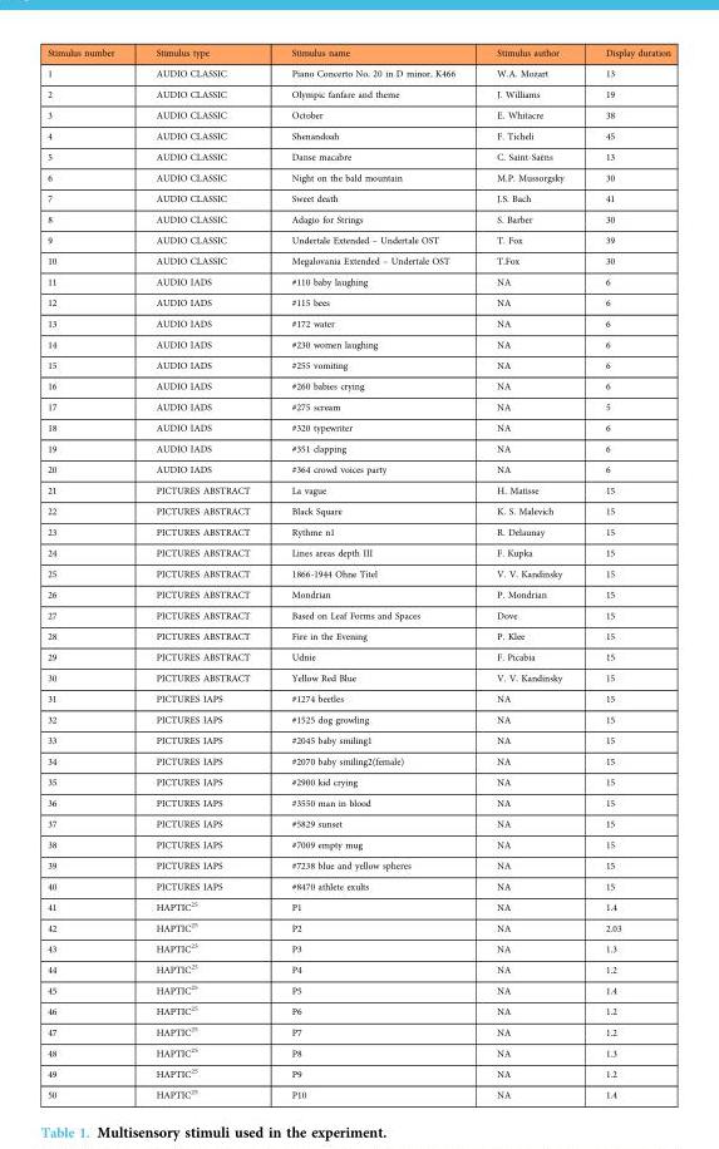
<table><thead><tr><td>Stimulus number</td><td>Stimulus type</td><td>Stimulus name</td><td>Stimulus author</td><td>Display duration</td></tr></thead><tbody><tr><td>1</td><td>AUDIO CLASSIC</td><td>Piano Concerto No. 20 in D minor, K466</td><td>W.A. Mozart</td><td>13</td></tr><tr><td>2</td><td>AUDIO CLASSIC</td><td>Olympic fanfare and theme</td><td>J. Williams</td><td>19</td></tr><tr><td>3</td><td>AUDIO CLASSIC</td><td>October</td><td>E. Whitacre</td><td>38</td></tr><tr><td>4</td><td>AUDIO CLASSIC</td><td>Shenandoah</td><td>F. Ticheli</td><td>45</td></tr><tr><td>5</td><td>AUDIO CLASSIC</td><td>Danse macabre</td><td>C. Saint-Saëns</td><td>13</td></tr><tr><td>6</td><td>AUDIO CLASSIC</td><td>Night on the bald mountain</td><td>M.P. Mussorgsky</td><td>30</td></tr><tr><td>7</td><td>AUDIO CLASSIC</td><td>Sweet death</td><td>J.S. Bach</td><td>41</td></tr><tr><td>8</td><td>AUDIO CLASSIC</td><td>Adagio for Strings</td><td>S. Barber</td><td>30</td></tr><tr><td>9</td><td>AUDIO CLASSIC</td><td>Undertale Extended – Undertale OST</td><td>T. Fox</td><td>39</td></tr><tr><td>10</td><td>AUDIO CLASSIC</td><td>Megalovania Extended – Undertale OST</td><td>T.Fox</td><td>30</td></tr><tr><td>11</td><td>AUDIO IADS</td><td>#110 baby laughing</td><td>NA</td><td>6</td></tr><tr><td>12</td><td>AUDIO IADS</td><td>#115 bees</td><td>NA</td><td>6</td></tr><tr><td>13</td><td>AUDIO IADS</td><td>#172 water</td><td>NA</td><td>6</td></tr><tr><td>14</td><td>AUDIO IADS</td><td>#230 women laughing</td><td>NA</td><td>6</td></tr><tr><td>15</td><td>AUDIO IADS</td><td>#255 vomiting</td><td>NA</td><td>6</td></tr><tr><td>16</td><td>AUDIO IADS</td><td>#260 babies crying</td><td>NA</td><td>6</td></tr><tr><td>17</td><td>AUDIO IADS</td><td>#275 scream</td><td>NA</td><td>5</td></tr><tr><td>18</td><td>AUDIO IADS</td><td>#320 typewriter</td><td>NA</td><td>6</td></tr><tr><td>19</td><td>AUDIO IADS</td><td>#351 clapping</td><td>NA</td><td>6</td></tr><tr><td>20</td><td>AUDIO IADS</td><td>#364 crowd voices party</td><td>NA</td><td>6</td></tr><tr><td>21</td><td>PICTURES ABSTRACT</td><td>La vague</td><td>H. Matisse</td><td>15</td></tr><tr><td>22</td><td>PICTURES ABSTRACT</td><td>Black Square</td><td>K. S. Malevich</td><td>15</td></tr><tr><td>23</td><td>PICTURES ABSTRACT</td><td>Rythme n1</td><td>R. Delaunay</td><td>15</td></tr><tr><td>24</td><td>PICTURES ABSTRACT</td><td>Lines areas depth III</td><td>F. Kupka</td><td>15</td></tr><tr><td>25</td><td>PICTURES ABSTRACT</td><td>1866-1944 Ohne Titel</td><td>V. V. Kandinsky</td><td>15</td></tr><tr><td>26</td><td>PICTURES ABSTRACT</td><td>Mondrian</td><td>P. Mondrian</td><td>15</td></tr><tr><td>27</td><td>PICTURES ABSTRACT</td><td>Based on Leaf Forms and Spaces</td><td>Dove</td><td>15</td></tr><tr><td>28</td><td>PICTURES ABSTRACT</td><td>Fire in the Evening</td><td>P. Klee</td><td>15</td></tr><tr><td>29</td><td>PICTURES ABSTRACT</td><td>Udnie</td><td>F. Picabia</td><td>15</td></tr><tr><td>30</td><td>PICTURES ABSTRACT</td><td>Yellow Red Blue</td><td>V. V. Kandinsky</td><td>15</td></tr><tr><td>31</td><td>PICTURES IAPS</td><td>#1274 beetles</td><td>NA</td><td>15</td></tr><tr><td>32</td><td>PICTURES IAPS</td><td>#1525 dog growling</td><td>NA</td><td>15</td></tr><tr><td>33</td><td>PICTURES IAPS</td><td>#2045 baby smiling1</td><td>NA</td><td>15</td></tr><tr><td>34</td><td>PICTURES IAPS</td><td>#2070 baby smiling2(female)</td><td>NA</td><td>15</td></tr><tr><td>35</td><td>PICTURES IAPS</td><td>#2900 kid crying</td><td>NA</td><td>15</td></tr><tr><td>36</td><td>PICTURES IAPS</td><td>#3550 man in blood</td><td>NA</td><td>15</td></tr><tr><td>37</td><td>PICTURES IAPS</td><td>#5829 sunset</td><td>NA</td><td>15</td></tr><tr><td>38</td><td>PICTURES IAPS</td><td>#7009 empty mug</td><td>NA</td><td>15</td></tr><tr><td>39</td><td>PICTURES IAPS</td><td>#7238 blue and yellow spheres</td><td>NA</td><td>15</td></tr><tr><td>40</td><td>PICTURES IAPS</td><td>#8470 athlete exults</td><td>NA</td><td>15</td></tr><tr><td>41</td><td>HAPTIC<sup>25</sup></td><td>P1</td><td>NA</td><td>1.4</td></tr><tr><td>42</td><td>HAPTIC<sup>25</sup></td><td>P2</td><td>NA</td><td>2.03</td></tr><tr><td>43</td><td>HAPTIC<sup>23</sup></td><td>P3</td><td>NA</td><td>1.3</td></tr><tr><td>44</td><td>HAPTIC<sup>25</sup></td><td>P4</td><td>NA</td><td>1.2</td></tr><tr><td>45</td><td>HAPTIC<sup>25</sup></td><td>P5</td><td>NA</td><td>1.4</td></tr><tr><td>46</td><td>HAPTIC<sup>25</sup></td><td>P6</td><td>NA</td><td>1.2</td></tr><tr><td>47</td><td>HAPTIC<sup>25</sup></td><td>P7</td><td>NA</td><td>1.2</td></tr><tr><td>48</td><td>HAPTIC<sup>25</sup></td><td>P8</td><td>NA</td><td>1.3</td></tr><tr><td>49</td><td>HAPTIC<sup>25</sup></td><td>P9</td><td>NA</td><td>1.2</td></tr><tr><td>50</td><td>HAPTIC<sup>25</sup></td><td>P10</td><td>NA</td><td>1.4</td></tr></tbody></table>